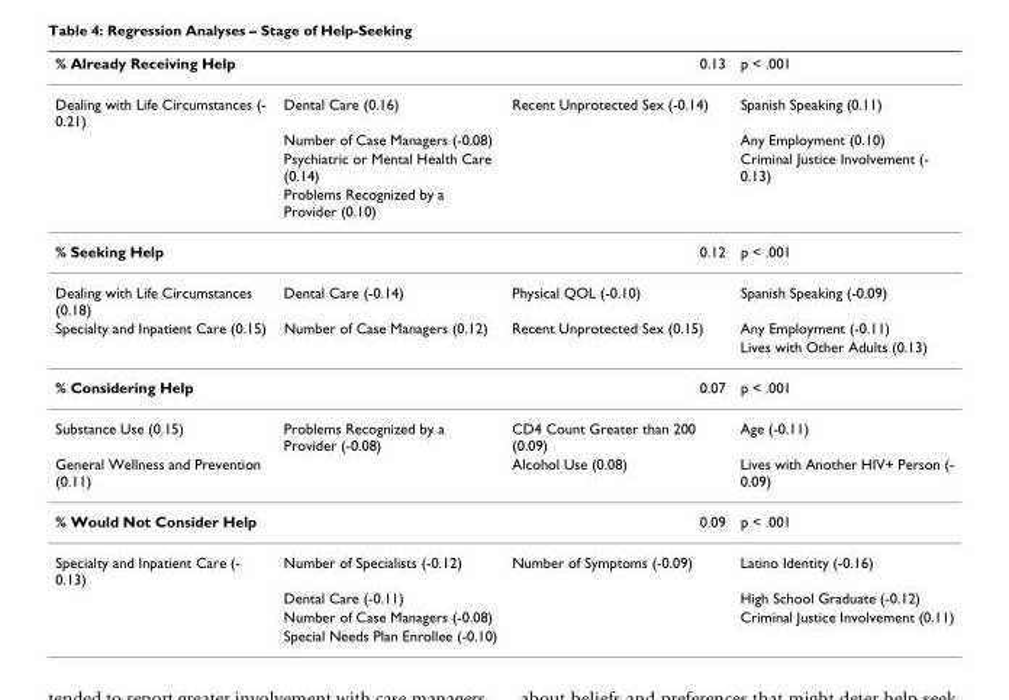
<table><thead><tr><td>% Already Receiving Help</td><td></td><td>0.13</td><td>p &lt; .001</td></tr></thead><tbody><tr><td rowspan="4">Dealing with Life Circumstances (- 0.21)</td><td>Dental Care (0.16)</td><td>Recent Unprotected Sex (-0.14)</td><td>Spanish Speaking (0.11)</td></tr><tr><td>Number of Case Managers (-0.08)</td><td></td><td>Any Employment (0.10)</td></tr><tr><td>Psychiatric or Mental Health Care (0.14)</td><td></td><td>Criminal Justice Involvement (- 0.13)</td></tr><tr><td>Problems Recognized by a Provider (0.10)</td><td></td><td></td></tr><tr><td>% Seeking Help</td><td></td><td>0.12</td><td>p &lt; .001</td></tr><tr><td>Dealing with Life Circumstances (0.18)</td><td>Dental Care (-0.14)</td><td>Physical QOL (-0.10)</td><td>Spanish Speaking (-0.09)</td></tr><tr><td rowspan="2">Specialty and Inpatient Care (0.15)</td><td>Number of Case Managers (0.12)</td><td>Recent Unprotected Sex (0.15)</td><td>Any Employment (-0.11)</td></tr><tr><td></td><td></td><td>Lives with Other Adults (0.13)</td></tr><tr><td>% Considering Help</td><td></td><td>0.07</td><td>p &lt; .001</td></tr><tr><td>Substance Use (0.15)</td><td>Problems Recognized by a Provider (-0.08)</td><td>CD4 Count Greater than 200 (0.09)</td><td>Age (-0.11)</td></tr><tr><td>General Wellness and Prevention (0.11)</td><td></td><td>Alcohol Use (0.08)</td><td>Lives with Another HIV+ Person (- 0.09)</td></tr><tr><td>% Would Not Consider Help</td><td></td><td>0.09</td><td>p &lt; .001</td></tr><tr><td rowspan="4">Specialty and Inpatient Care (- 0.13)</td><td>Number of Specialists (-0.12)</td><td>Number of Symptoms (-0.09)</td><td>Latino Identity (-0.16)</td></tr><tr><td>Dental Care (-0.11)</td><td></td><td>High School Graduate (-0.12)</td></tr><tr><td>Number of Case Managers (-0.08)</td><td></td><td>Criminal Justice Involvement (0.11)</td></tr><tr><td>Special Needs Plan Enrollee (-0.10)</td><td></td><td></td></tr></tbody></table>